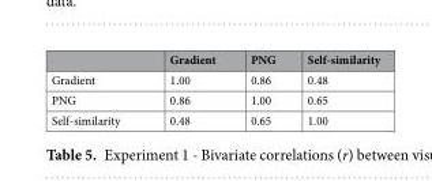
<table><thead><tr><td></td><td>Gradient</td><td>PNG</td><td>Self-similarity</td></tr></thead><tbody><tr><td>Gradient</td><td>1.00</td><td>0.86</td><td>0.48</td></tr><tr><td>PNG</td><td>0.86</td><td>1.00</td><td>0.65</td></tr><tr><td>Self-similarity</td><td>0.48</td><td>0.65</td><td>1.00</td></tr></tbody></table>